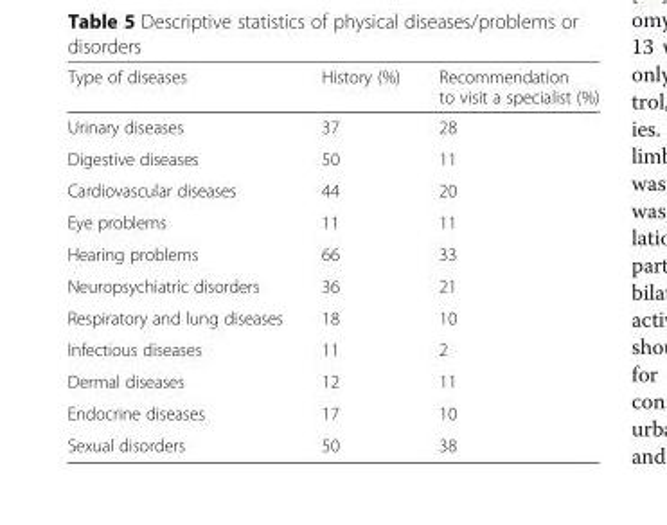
<table><thead><tr><td>Type of diseases</td><td>History (%)</td><td>Recommendation to visit a specialist (%)</td></tr></thead><tbody><tr><td>Urinary diseases</td><td>37</td><td>28</td></tr><tr><td>Digestive diseases</td><td>50</td><td>11</td></tr><tr><td>Cardiovascular diseases</td><td>44</td><td>20</td></tr><tr><td>Eye problems</td><td>11</td><td>11</td></tr><tr><td>Hearing problems</td><td>66</td><td>33</td></tr><tr><td>Neuropsychiatric disorders</td><td>36</td><td>21</td></tr><tr><td>Respiratory and lung diseases</td><td>18</td><td>10</td></tr><tr><td>Infectious diseases</td><td>11</td><td>2</td></tr><tr><td>Dermal diseases</td><td>12</td><td>11</td></tr><tr><td>Endocrine diseases</td><td>17</td><td>10</td></tr><tr><td>Sexual disorders</td><td>50</td><td>38</td></tr></tbody></table>